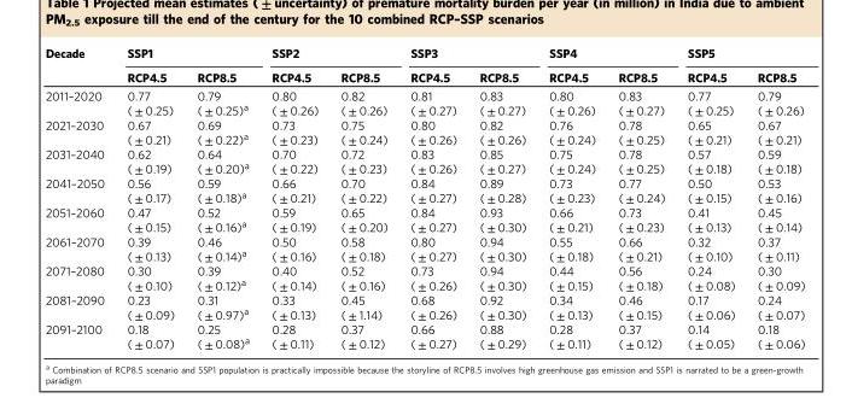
<table><thead><tr><td rowspan="2">Decade</td><td colspan="2">SSP1</td><td colspan="2">SSP2</td><td colspan="2">SSP3</td><td colspan="2">SSP4</td><td colspan="2">SSP5</td></tr><tr><td>RCP4.5</td><td>RCP8.5</td><td>RCP4.5</td><td>RCP8.5</td><td>RCP4.5</td><td>RCP8.5</td><td>RCP4.5</td><td>RCP8.5</td><td>RCP4.5</td><td>RCP8.5</td></tr></thead><tbody><tr><td>2011–2020</td><td>0.77 ( ± 0.25)</td><td>0.79 ( ± 0.25)<sup>a</sup></td><td>0.80 ( ± 0.26)</td><td>0.82 ( ± 0.26)</td><td>0.81 ( ± 0.27)</td><td>0.83 ( ± 0.27)</td><td>0.80 ( ± 0.26)</td><td>0.83 ( ± 0.27)</td><td>0.77 ( ± 0.25)</td><td>0.79 ( ± 0.26)</td></tr><tr><td>2021–2030</td><td>0.67 ( ± 0.21)</td><td>0.69 ( ± 0.22)<sup>a</sup></td><td>0.73 ( ± 0.23)</td><td>0.75 ( ± 0.24)</td><td>0.80 ( ± 0.26)</td><td>0.82 ( ± 0.26)</td><td>0.76 ( ± 0.24)</td><td>0.78 ( ± 0.25)</td><td>0.65 ( ± 0.21)</td><td>0.67 ( ± 0.21)</td></tr><tr><td>2031–2040</td><td>0.62 ( ± 0.19)</td><td>0.64 ( ± 0.20)<sup>a</sup></td><td>0.70 ( ± 0.22)</td><td>0.72 ( ± 0.23)</td><td>0.83 ( ± 0.26)</td><td>0.85 ( ± 0.27)</td><td>0.75 ( ± 0.24)</td><td>0.78 ( ± 0.25)</td><td>0.57 ( ± 0.18)</td><td>0.59 ( ± 0.18)</td></tr><tr><td>2041–2050</td><td>0.56 ( ± 0.17)</td><td>0.59 ( ± 0.18)<sup>a</sup></td><td>0.66 ( ± 0.21)</td><td>0.70 ( ± 0.22)</td><td>0.84 ( ± 0.27)</td><td>0.89 ( ± 0.28)</td><td>0.73 ( ± 0.23)</td><td>0.77 ( ± 0.24)</td><td>0.50 ( ± 0.15)</td><td>0.53 ( ± 0.16)</td></tr><tr><td>2051–2060</td><td>0.47 ( ± 0.15)</td><td>0.52 ( ± 0.16)<sup>a</sup></td><td>0.59 ( ± 0.19)</td><td>0.65 ( ± 0.20)</td><td>0.84 ( ± 0.27)</td><td>0.93 ( ± 0.30)</td><td>0.66 ( ± 0.21)</td><td>0.73 ( ± 0.23)</td><td>0.41 ( ± 0.13)</td><td>0.45 ( ± 0.14)</td></tr><tr><td>2061–2070</td><td>0.39 ( ± 0.13)</td><td>0.46 ( ± 0.14)<sup>a</sup></td><td>0.50 ( ± 0.16)</td><td>0.58 ( ± 0.18)</td><td>0.80 ( ± 0.27)</td><td>0.94 ( ± 0.30)</td><td>0.55 ( ± 0.18)</td><td>0.66 ( ± 0.21)</td><td>0.32 ( ± 0.10)</td><td>0.37 ( ± 0.11)</td></tr><tr><td>2071–2080</td><td>0.30 ( ± 0.10)</td><td>0.39 ( ± 0.12)<sup>a</sup></td><td>0.40 ( ± 0.14)</td><td>0.52 ( ± 0.16)</td><td>0.73 ( ± 0.26)</td><td>0.94 ( ± 0.30)</td><td>0.44 ( ± 0.15)</td><td>0.56 ( ± 0.18)</td><td>0.24 ( ± 0.08)</td><td>0.30 ( ± 0.09)</td></tr><tr><td>2081–2090</td><td>0.23 ( ± 0.09)</td><td>0.31 ( ± 0.97)<sup>a</sup></td><td>0.33 ( ± 0.13)</td><td>0.45 ( ± 1.14)</td><td>0.68 ( ± 0.26)</td><td>0.92 ( ± 0.30)</td><td>0.34 ( ± 0.13)</td><td>0.46 ( ± 0.15)</td><td>0.17 ( ± 0.06)</td><td>0.24 ( ± 0.07)</td></tr><tr><td>2091–2100</td><td>0.18 ( ± 0.07)</td><td>0.25 ( ± 0.08)<sup>a</sup></td><td>0.28 ( ± 0.11)</td><td>0.37 ( ± 0.12)</td><td>0.66 ( ± 0.27)</td><td>0.88 ( ± 0.29)</td><td>0.28 ( ± 0.11)</td><td>0.37 ( ± 0.12)</td><td>0.14 ( ± 0.05)</td><td>0.18 ( ± 0.06)</td></tr></tbody></table>